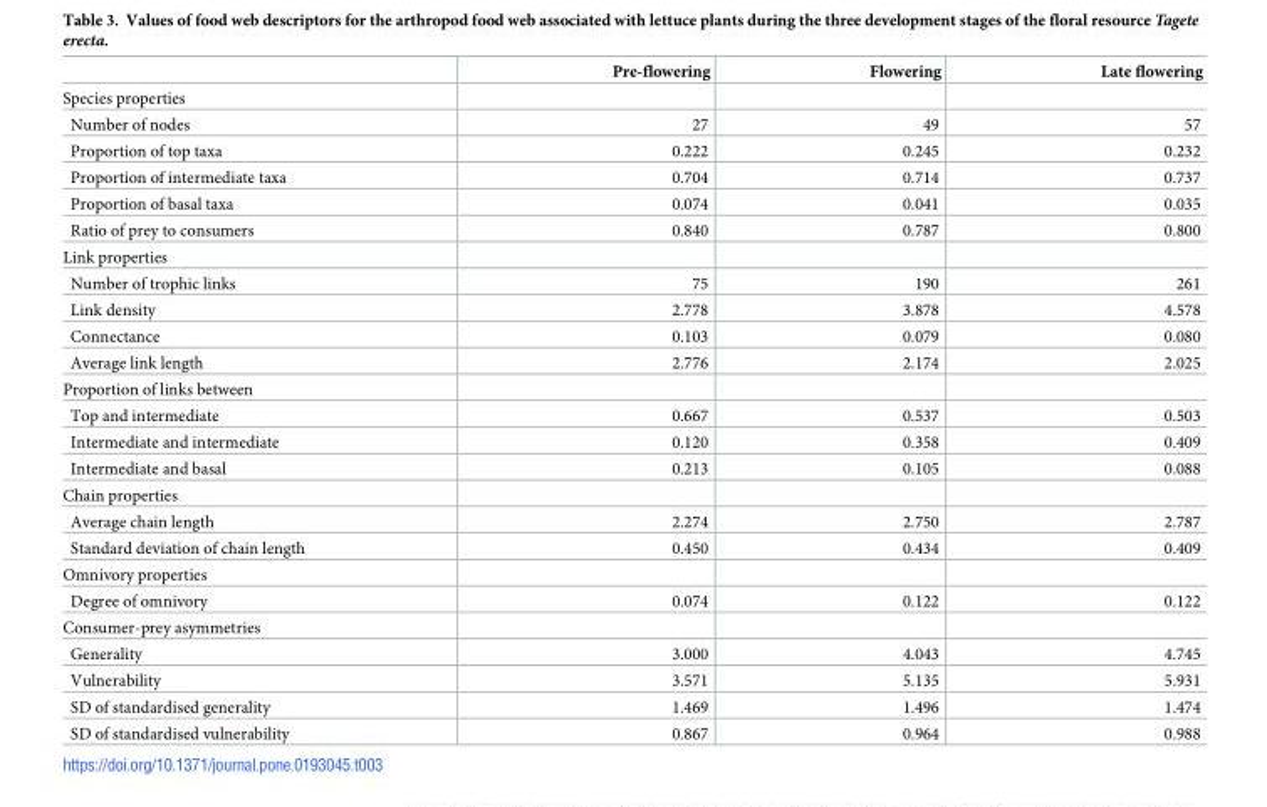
<table><thead><tr><td></td><td>Pre-flowering</td><td>Flowering</td><td>Late flowering</td></tr></thead><tbody><tr><td colspan="4">Species properties</td></tr><tr><td>Number of nodes</td><td>27</td><td>49</td><td>57</td></tr><tr><td>Proportion of top taxa</td><td>0.222</td><td>0.245</td><td>0.232</td></tr><tr><td>Proportion of intermediate taxa</td><td>0.704</td><td>0.714</td><td>0.737</td></tr><tr><td>Proportion of basal taxa</td><td>0.074</td><td>0.041</td><td>0.035</td></tr><tr><td>Ratio of prey to consumers</td><td>0.840</td><td>0.787</td><td>0.800</td></tr><tr><td colspan="4">Link properties</td></tr><tr><td>Number of trophic links</td><td>75</td><td>190</td><td>261</td></tr><tr><td>Link density</td><td>2.778</td><td>3.878</td><td>4.578</td></tr><tr><td>Connectance</td><td>0.103</td><td>0.079</td><td>0.080</td></tr><tr><td>Average link length</td><td>2.776</td><td>2.174</td><td>2.025</td></tr><tr><td colspan="4">Proportion of links between</td></tr><tr><td>Top and intermediate</td><td>0.667</td><td>0.537</td><td>0.503</td></tr><tr><td>Intermediate and intermediate</td><td>0.120</td><td>0.358</td><td>0.409</td></tr><tr><td>Intermediate and basal</td><td>0.213</td><td>0.105</td><td>0.088</td></tr><tr><td colspan="4">Chain properties</td></tr><tr><td>Average chain length</td><td>2.274</td><td>2.750</td><td>2.787</td></tr><tr><td>Standard deviation of chain length</td><td>0.450</td><td>0.434</td><td>0.409</td></tr><tr><td colspan="4">Omnivory properties</td></tr><tr><td>Degree of omnivory</td><td>0.074</td><td>0.122</td><td>0.122</td></tr><tr><td colspan="4">Consumer-prey asymmetries</td></tr><tr><td>Generality</td><td>3.000</td><td>4.043</td><td>4.745</td></tr><tr><td>Vulnerability</td><td>3.571</td><td>5.135</td><td>5.931</td></tr><tr><td>SD of standardised generality</td><td>1.469</td><td>1.496</td><td>1.474</td></tr><tr><td>SD of standardised vulnerability</td><td>0.867</td><td>0.964</td><td>0.988</td></tr></tbody></table>